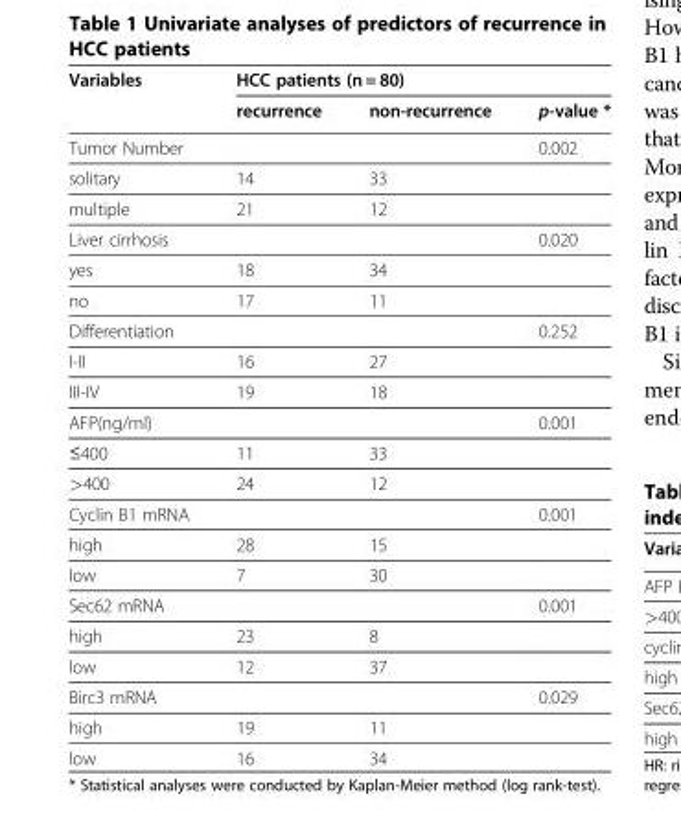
<table><thead><tr><td rowspan="2">Variables</td><td colspan="3">HCC patients (n = 80)</td></tr><tr><td>recurrence</td><td>non-recurrence</td><td>p-value *</td></tr></thead><tbody><tr><td>Tumor Number</td><td></td><td></td><td>0.002</td></tr><tr><td>solitary</td><td>14</td><td>33</td><td></td></tr><tr><td>multiple</td><td>21</td><td>12</td><td></td></tr><tr><td>Liver cirrhosis</td><td></td><td></td><td>0.020</td></tr><tr><td>yes</td><td>18</td><td>34</td><td></td></tr><tr><td>no</td><td>17</td><td>11</td><td></td></tr><tr><td>Differentiation</td><td></td><td></td><td>0.252</td></tr><tr><td>I-II</td><td>16</td><td>27</td><td></td></tr><tr><td>III-IV</td><td>19</td><td>18</td><td></td></tr><tr><td>AFP(ng/ml)</td><td></td><td></td><td>0.001</td></tr><tr><td>≤400</td><td>11</td><td>33</td><td></td></tr><tr><td>&gt;400</td><td>24</td><td>12</td><td></td></tr><tr><td>Cyclin B1 mRNA</td><td></td><td></td><td>0.001</td></tr><tr><td>high</td><td>28</td><td>15</td><td></td></tr><tr><td>low</td><td>7</td><td>30</td><td></td></tr><tr><td>Sec62 mRNA</td><td></td><td></td><td>0.001</td></tr><tr><td>high</td><td>23</td><td>8</td><td></td></tr><tr><td>low</td><td>12</td><td>37</td><td></td></tr><tr><td>Birc3 mRNA</td><td></td><td></td><td>0.029</td></tr><tr><td>high</td><td>19</td><td>11</td><td></td></tr><tr><td>low</td><td>16</td><td>34</td><td></td></tr></tbody></table>